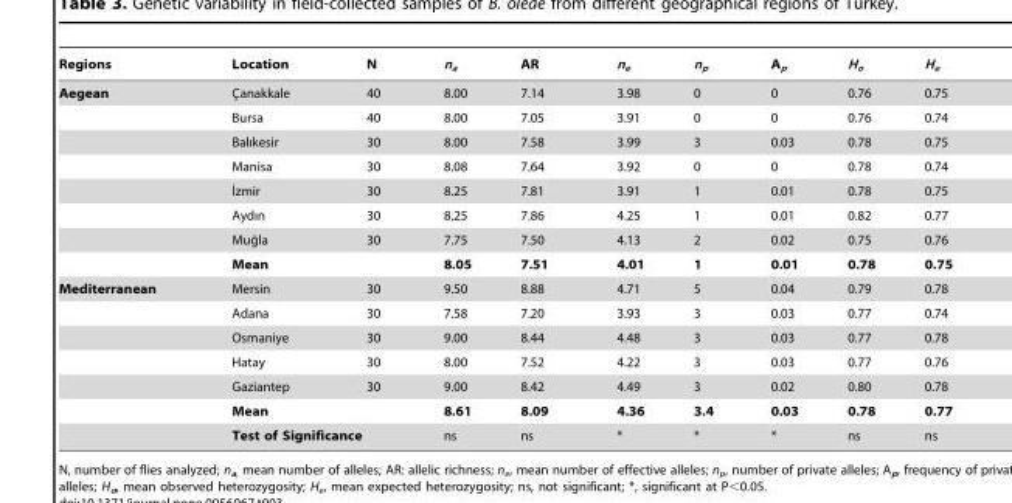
<table><thead><tr><td>Regions</td><td>Location</td><td>N</td><td>n<sub>a</sub></td><td>AR</td><td>n<sub>e</sub></td><td>n<sub>p</sub></td><td>A<sub>p</sub></td><td>H<sub>o</sub></td><td>H<sub>e</sub></td></tr></thead><tbody><tr><td rowspan="8">Aegean</td><td>C¸anakkale</td><td>40</td><td>8.00</td><td>7.14</td><td>3.98</td><td>0</td><td>0</td><td>0.76</td><td>0.75</td></tr><tr><td>Bursa</td><td>40</td><td>8.00</td><td>7.05</td><td>3.91</td><td>0</td><td>0</td><td>0.76</td><td>0.74</td></tr><tr><td>Balıkesir</td><td>30</td><td>8.00</td><td>7.58</td><td>3.99</td><td>3</td><td>0.03</td><td>0.78</td><td>0.75</td></tr><tr><td>Manisa</td><td>30</td><td>8.08</td><td>7.64</td><td>3.92</td><td>0</td><td>0</td><td>0.78</td><td>0.74</td></tr><tr><td>I˙zmir</td><td>30</td><td>8.25</td><td>7.81</td><td>3.91</td><td>1</td><td>0.01</td><td>0.78</td><td>0.75</td></tr><tr><td>Aydın</td><td>30</td><td>8.25</td><td>7.86</td><td>4.25</td><td>1</td><td>0.01</td><td>0.82</td><td>0.77</td></tr><tr><td>Mug˘la</td><td>30</td><td>7.75</td><td>7.50</td><td>4.13</td><td>2</td><td>0.02</td><td>0.75</td><td>0.76</td></tr><tr><td>Mean</td><td></td><td>8.05</td><td>7.51</td><td>4.01</td><td>1</td><td>0.01</td><td>0.78</td><td>0.75</td></tr><tr><td rowspan="7">Mediterranean</td><td>Mersin</td><td>30</td><td>9.50</td><td>8.88</td><td>4.71</td><td>5</td><td>0.04</td><td>0.79</td><td>0.78</td></tr><tr><td>Adana</td><td>30</td><td>7.58</td><td>7.20</td><td>3.93</td><td>3</td><td>0.03</td><td>0.77</td><td>0.74</td></tr><tr><td>Osmaniye</td><td>30</td><td>9.00</td><td>8.44</td><td>4.48</td><td>3</td><td>0.03</td><td>0.77</td><td>0.78</td></tr><tr><td>Hatay</td><td>30</td><td>8.00</td><td>7.52</td><td>4.22</td><td>3</td><td>0.03</td><td>0.77</td><td>0.76</td></tr><tr><td>Gaziantep</td><td>30</td><td>9.00</td><td>8.42</td><td>4.49</td><td>3</td><td>0.02</td><td>0.80</td><td>0.78</td></tr><tr><td>Mean</td><td></td><td>8.61</td><td>8.09</td><td>4.36</td><td>3.4</td><td>0.03</td><td>0.78</td><td>0.77</td></tr><tr><td>Test of Significance</td><td></td><td>ns</td><td>ns</td><td>*</td><td>*</td><td>*</td><td>ns</td><td>ns</td></tr></tbody></table>